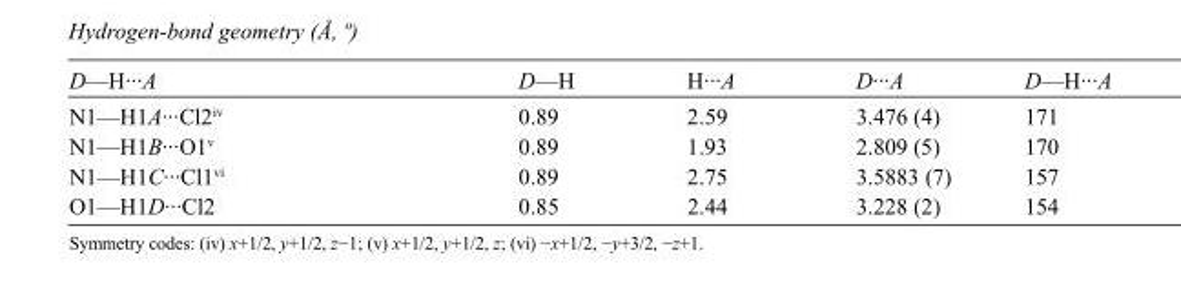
<table><tbody><tr><td>D—H···A</td><td>D—H</td><td>H···A</td><td>D···A</td><td>D—H···A</td></tr><tr><td>N1—H1A···Cl2<sup>iv</sup></td><td>0.89</td><td>2.59</td><td>3.476 (4)</td><td>171</td></tr><tr><td>N1—H1B···O1<sup>v</sup></td><td>0.89</td><td>1.93</td><td>2.809 (5)</td><td>170</td></tr><tr><td>N1—H1C···Cl1<sup>vi</sup></td><td>0.89</td><td>2.75</td><td>3.5883 (7)</td><td>157</td></tr><tr><td>O1—H1D···Cl2</td><td>0.85</td><td>2.44</td><td>3.228 (2)</td><td>154</td></tr></tbody></table>